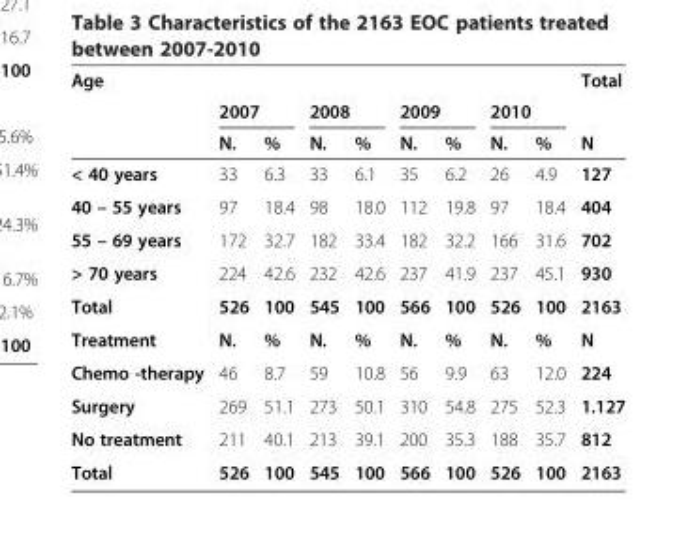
<table><thead><tr><td rowspan="3">Age</td><td></td><td></td><td></td><td></td><td></td><td></td><td></td><td></td><td rowspan="3">Total N</td></tr><tr><td colspan="2">2007</td><td colspan="2">2008</td><td colspan="2">2009</td><td colspan="2">2010</td></tr><tr><td>N.</td><td>%</td><td>N.</td><td>%</td><td>N.</td><td>%</td><td>N.</td><td>%</td></tr></thead><tbody><tr><td>&lt; 40 years</td><td>33</td><td>6.3</td><td>33</td><td>6.1</td><td>35</td><td>6.2</td><td>26</td><td>4.9</td><td>127</td></tr><tr><td>40 – 55 years</td><td>97</td><td>18.4</td><td>98</td><td>18.0</td><td>112</td><td>19.8</td><td>97</td><td>18.4</td><td>404</td></tr><tr><td>55 – 69 years</td><td>172</td><td>32.7</td><td>182</td><td>33.4</td><td>182</td><td>32.2</td><td>166</td><td>31.6</td><td>702</td></tr><tr><td>&gt; 70 years</td><td>224</td><td>42.6</td><td>232</td><td>42.6</td><td>237</td><td>41.9</td><td>237</td><td>45.1</td><td>930</td></tr><tr><td>Total</td><td>526</td><td>100</td><td>545</td><td>100</td><td>566</td><td>100</td><td>526</td><td>100</td><td>2163</td></tr><tr><td>Treatment</td><td>N.</td><td>%</td><td>N.</td><td>%</td><td>N.</td><td>%</td><td>N.</td><td>%</td><td>N</td></tr><tr><td>Chemo -therapy</td><td>46</td><td>8.7</td><td>59</td><td>10.8</td><td>56</td><td>9.9</td><td>63</td><td>12.0</td><td>224</td></tr><tr><td>Surgery</td><td>269</td><td>51.1</td><td>273</td><td>50.1</td><td>310</td><td>54.8</td><td>275</td><td>52.3</td><td>1.127</td></tr><tr><td>No treatment</td><td>211</td><td>40.1</td><td>213</td><td>39.1</td><td>200</td><td>35.3</td><td>188</td><td>35.7</td><td>812</td></tr><tr><td>Total</td><td>526</td><td>100</td><td>545</td><td>100</td><td>566</td><td>100</td><td>526</td><td>100</td><td>2163</td></tr></tbody></table>